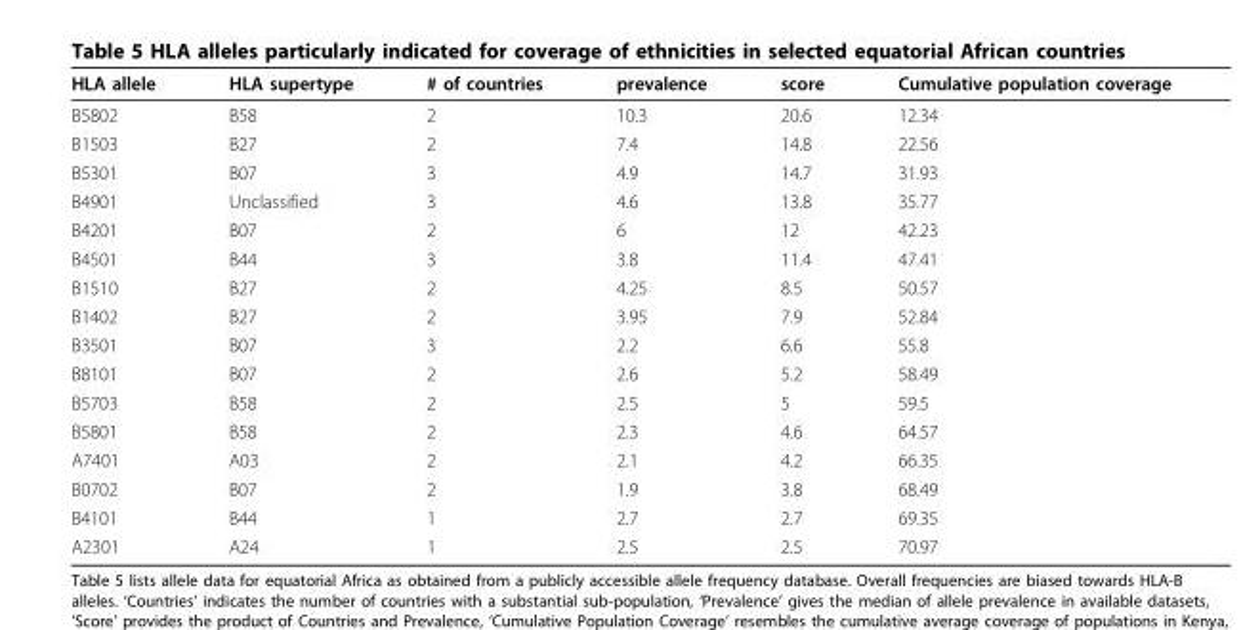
<table><thead><tr><td>HLA allele</td><td>HLA supertype</td><td># of countries</td><td>prevalence</td><td>score</td><td>Cumulative population coverage</td></tr></thead><tbody><tr><td>B5802</td><td>B58</td><td>2</td><td>10.3</td><td>20.6</td><td>12.34</td></tr><tr><td>B1503</td><td>B27</td><td>2</td><td>7.4</td><td>14.8</td><td>22.56</td></tr><tr><td>B5301</td><td>B07</td><td>3</td><td>4.9</td><td>14.7</td><td>31.93</td></tr><tr><td>B4901</td><td>Unclassified</td><td>3</td><td>4.6</td><td>13.8</td><td>35.77</td></tr><tr><td>B4201</td><td>B07</td><td>2</td><td>6</td><td>12</td><td>42.23</td></tr><tr><td>B4501</td><td>B44</td><td>3</td><td>3.8</td><td>11.4</td><td>47.41</td></tr><tr><td>B1510</td><td>B27</td><td>2</td><td>4.25</td><td>8.5</td><td>50.57</td></tr><tr><td>B1402</td><td>B27</td><td>2</td><td>3.95</td><td>7.9</td><td>52.84</td></tr><tr><td>B3501</td><td>B07</td><td>3</td><td>2.2</td><td>6.6</td><td>55.8</td></tr><tr><td>B8101</td><td>B07</td><td>2</td><td>2.6</td><td>5.2</td><td>58.49</td></tr><tr><td>B5703</td><td>B58</td><td>2</td><td>2.5</td><td>5</td><td>59.5</td></tr><tr><td>B5801</td><td>B58</td><td>2</td><td>2.3</td><td>4.6</td><td>64.57</td></tr><tr><td>A7401</td><td>A03</td><td>2</td><td>2.1</td><td>4.2</td><td>66.35</td></tr><tr><td>B0702</td><td>B07</td><td>2</td><td>1.9</td><td>3.8</td><td>68.49</td></tr><tr><td>B4101</td><td>B44</td><td>1</td><td>2.7</td><td>2.7</td><td>69.35</td></tr><tr><td>A2301</td><td>A24</td><td>1</td><td>2.5</td><td>2.5</td><td>70.97</td></tr></tbody></table>